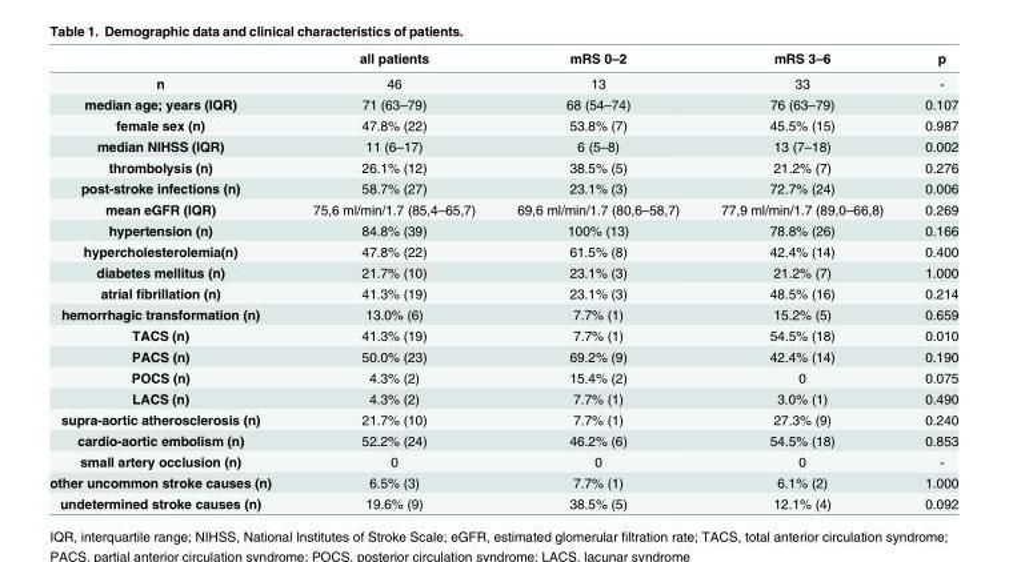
<table><thead><tr><td></td><td>all patients</td><td>mRS 0–2</td><td>mRS 3–6</td><td>p</td></tr></thead><tbody><tr><td>n</td><td>46</td><td>13</td><td>33</td><td>-</td></tr><tr><td>median age; years (IQR)</td><td>71 (63–79)</td><td>68 (54–74)</td><td>76 (63–79)</td><td>0.107</td></tr><tr><td>female sex (n)</td><td>47.8% (22)</td><td>53.8% (7)</td><td>45.5% (15)</td><td>0.987</td></tr><tr><td>median NIHSS (IQR)</td><td>11 (6–17)</td><td>6 (5–8)</td><td>13 (7–18)</td><td>0.002</td></tr><tr><td>thrombolysis (n)</td><td>26.1% (12)</td><td>38.5% (5)</td><td>21.2% (7)</td><td>0.276</td></tr><tr><td>post-stroke infections (n)</td><td>58.7% (27)</td><td>23.1% (3)</td><td>72.7% (24)</td><td>0.006</td></tr><tr><td>mean eGFR (IQR)</td><td>75,6 ml/min/1.7 (85,4–65,7)</td><td>69,6 ml/min/1.7 (80,6–58,7)</td><td>77,9 ml/min/1.7 (89,0–66,8)</td><td>0.269</td></tr><tr><td>hypertension (n)</td><td>84.8% (39)</td><td>100% (13)</td><td>78.8% (26)</td><td>0.166</td></tr><tr><td>hypercholesterolemia(n)</td><td>47.8% (22)</td><td>61.5% (8)</td><td>42.4% (14)</td><td>0.400</td></tr><tr><td>diabetes mellitus (n)</td><td>21.7% (10)</td><td>23.1% (3)</td><td>21.2% (7)</td><td>1.000</td></tr><tr><td>atrial fibrillation (n)</td><td>41.3% (19)</td><td>23.1% (3)</td><td>48.5% (16)</td><td>0.214</td></tr><tr><td>hemorrhagic transformation (n)</td><td>13.0% (6)</td><td>7.7% (1)</td><td>15.2% (5)</td><td>0.659</td></tr><tr><td>TACS (n)</td><td>41.3% (19)</td><td>7.7% (1)</td><td>54.5% (18)</td><td>0.010</td></tr><tr><td>PACS (n)</td><td>50.0% (23)</td><td>69.2% (9)</td><td>42.4% (14)</td><td>0.190</td></tr><tr><td>POCS (n)</td><td>4.3% (2)</td><td>15.4% (2)</td><td>0</td><td>0.075</td></tr><tr><td>LACS (n)</td><td>4.3% (2)</td><td>7.7% (1)</td><td>3.0% (1)</td><td>0.490</td></tr><tr><td>supra-aortic atherosclerosis (n)</td><td>21.7% (10)</td><td>7.7% (1)</td><td>27.3% (9)</td><td>0.240</td></tr><tr><td>cardio-aortic embolism (n)</td><td>52.2% (24)</td><td>46.2% (6)</td><td>54.5% (18)</td><td>0.853</td></tr><tr><td>small artery occlusion (n)</td><td>0</td><td>0</td><td>0</td><td>-</td></tr><tr><td>other uncommon stroke causes (n)</td><td>6.5% (3)</td><td>7.7% (1)</td><td>6.1% (2)</td><td>1.000</td></tr><tr><td>undetermined stroke causes (n)</td><td>19.6% (9)</td><td>38.5% (5)</td><td>12.1% (4)</td><td>0.092</td></tr></tbody></table>